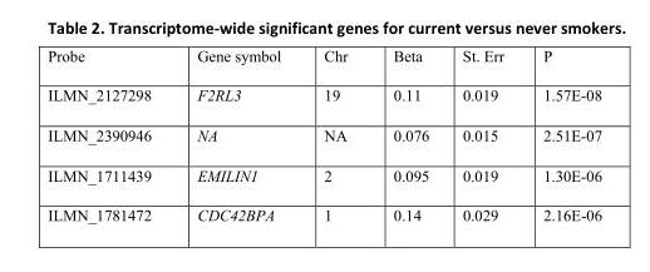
<table><thead><tr><td>Probe</td><td>Gene symbol</td><td>Chr</td><td>Beta</td><td>St. Err</td><td>P</td></tr></thead><tbody><tr><td>ILMN_2127298</td><td>F2RL3</td><td>19</td><td>0.11</td><td>0.019</td><td>1.57E-08</td></tr><tr><td>ILMN_2390946</td><td>NA</td><td>NA</td><td>0.076</td><td>0.015</td><td>2.51E-07</td></tr><tr><td>ILMN_1711439</td><td>EMILIN1</td><td>2</td><td>0.095</td><td>0.019</td><td>1.30E-06</td></tr><tr><td>ILMN_1781472</td><td>CDC42BPA</td><td>1</td><td>0.14</td><td>0.029</td><td>2.16E-06</td></tr></tbody></table>